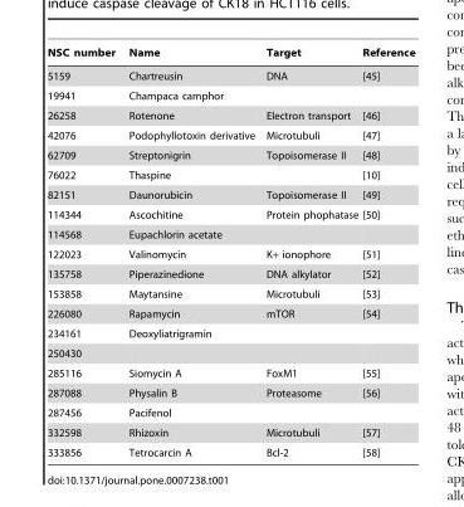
<table><thead><tr><td>NSC number</td><td>Name</td><td>Target</td><td>Reference</td></tr></thead><tbody><tr><td>5159</td><td>Chartreusin</td><td>DNA</td><td>[45]</td></tr><tr><td>19941</td><td>Champaca camphor</td><td></td><td></td></tr><tr><td>26258</td><td>Rotenone</td><td>Electron transport</td><td>[46]</td></tr><tr><td>42076</td><td>Podophyllotoxin derivative</td><td>Microtubuli</td><td>[47]</td></tr><tr><td>62709</td><td>Streptonigrin</td><td>Topoisomerase II</td><td>[48]</td></tr><tr><td>76022</td><td>Thaspine</td><td></td><td>[10]</td></tr><tr><td>82151</td><td>Daunorubicin</td><td>Topoisomerase II</td><td>[49]</td></tr><tr><td>114344</td><td>Ascochitine</td><td>Protein phophatase</td><td>[50]</td></tr><tr><td>114568</td><td>Eupachlorin acetate</td><td></td><td></td></tr><tr><td>122023</td><td>Valinomycin</td><td>K+ ionophore</td><td>[51]</td></tr><tr><td>135758</td><td>Piperazinedione</td><td>DNA alkylator</td><td>[52]</td></tr><tr><td>153858</td><td>Maytansine</td><td>Microtubuli</td><td>[53]</td></tr><tr><td>226080</td><td>Rapamycin</td><td>mTOR</td><td>[54]</td></tr><tr><td>234161</td><td>Deoxyliatrigramin</td><td></td><td></td></tr><tr><td colspan="4">250430</td></tr><tr><td>285116</td><td>Siomycin A</td><td>FoxM1</td><td>[55]</td></tr><tr><td>287088</td><td>Physalin B</td><td>Proteasome</td><td>[56]</td></tr><tr><td>287456</td><td>Pacifenol</td><td></td><td></td></tr><tr><td>332598</td><td>Rhizoxin</td><td>Microtubuli</td><td>[57]</td></tr><tr><td>333856</td><td>Tetrocarcin A</td><td>Bcl-2</td><td>[58]</td></tr></tbody></table>